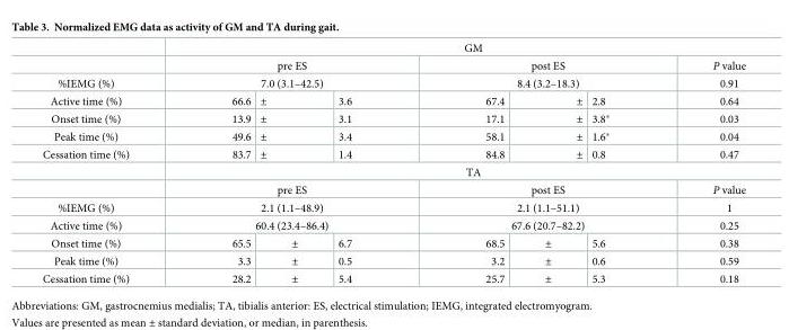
<table><thead><tr><td rowspan="4">%IEMG (%) Active time (%)</td><td colspan="7">GM</td></tr><tr><td rowspan="2" colspan="3">pre ES 7.0 (3.1–42.5)</td><td rowspan="2" colspan="3">post ES 8.4 (3.2–18.3)</td><td rowspan="3">P value 0.91 0.64</td></tr><tr></tr><tr><td>66.6</td><td>±</td><td>3.6</td><td>67.4</td><td>±</td><td>2.8</td></tr></thead><tbody><tr><td>Onset time (%)</td><td>13.9</td><td>±</td><td>3.1</td><td>17.1</td><td>±</td><td>3.8*</td><td>0.03</td></tr><tr><td>Peak time (%)</td><td>49.6</td><td>±</td><td>3.4</td><td>58.1</td><td>±</td><td>1.6*</td><td>0.04</td></tr><tr><td rowspan="3">Cessation time (%)</td><td>83.7</td><td>±</td><td>1.4</td><td>84.8</td><td>±</td><td>0.8</td><td>0.47</td></tr><tr><td colspan="7">TA</td></tr><tr><td colspan="3">pre ES</td><td colspan="3">post ES</td><td>P value</td></tr><tr><td>%IEMG (%)</td><td colspan="3">2.1 (1.1–48.9)</td><td colspan="3">2.1 (1.1–51.1)</td><td>1</td></tr><tr><td>Active time (%)</td><td colspan="3">60.4 (23.4–86.4)</td><td colspan="3">67.6 (20.7–82.2)</td><td>0.25</td></tr><tr><td>Onset time (%)</td><td>65.5</td><td>±</td><td>6.7</td><td>68.5</td><td>±</td><td>5.6</td><td>0.38</td></tr><tr><td>Peak time (%)</td><td>3.3</td><td>±</td><td>0.5</td><td>3.2</td><td>±</td><td>0.6</td><td>0.59</td></tr><tr><td>Cessation time (%)</td><td>28.2</td><td>±</td><td>5.4</td><td>25.7</td><td>±</td><td>5.3</td><td>0.18</td></tr></tbody></table>